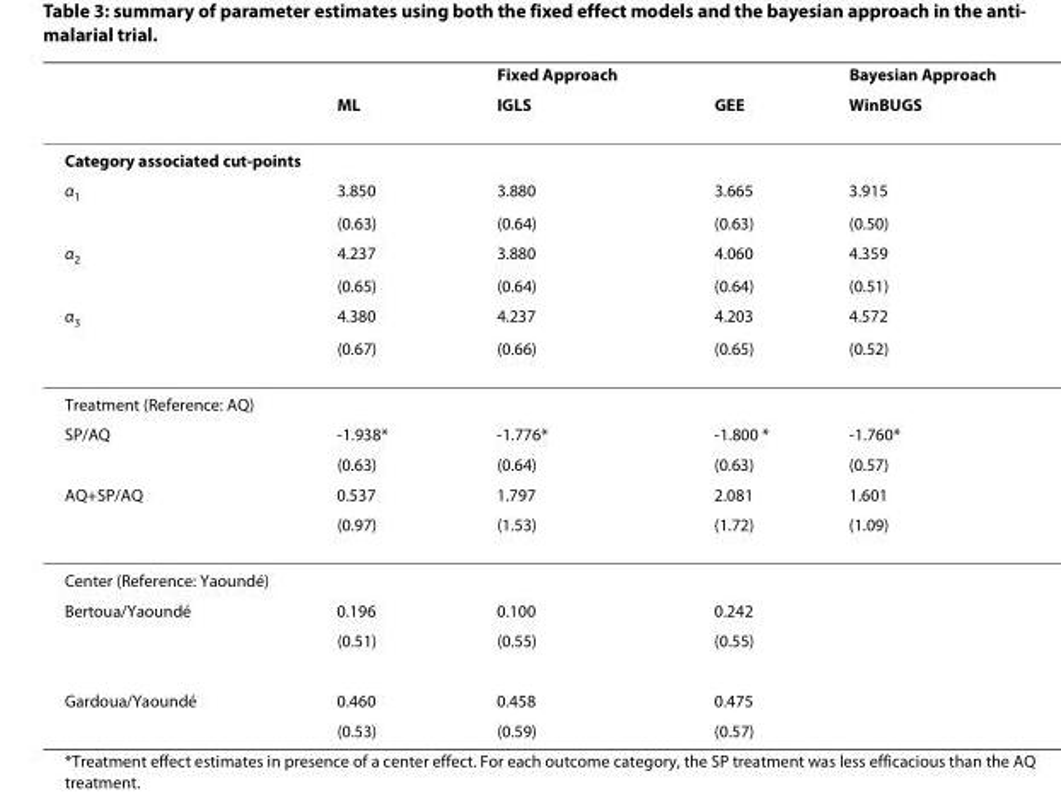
<table><thead><tr><td rowspan="2"></td><td rowspan="2">ML</td><td rowspan="2">Fixed Approach IGLS</td><td rowspan="2">GEE</td><td rowspan="2">Bayesian Approach WinBUGS</td></tr><tr></tr></thead><tbody><tr><td colspan="5">Category associated cut-points</td></tr><tr><td rowspan="2">α<sub>1</sub></td><td>3.850</td><td>3.880</td><td>3.665</td><td>3.915</td></tr><tr><td>(0.63)</td><td>(0.64)</td><td>(0.63)</td><td>(0.50)</td></tr><tr><td rowspan="2">α<sub>2</sub></td><td>4.237</td><td>3.880</td><td>4.060</td><td>4.359</td></tr><tr><td>(0.65)</td><td>(0.64)</td><td>(0.64)</td><td>(0.51)</td></tr><tr><td rowspan="2">α<sub>3</sub></td><td>4.380</td><td>4.237</td><td>4.203</td><td>4.572</td></tr><tr><td>(0.67)</td><td>(0.66)</td><td>(0.65)</td><td>(0.52)</td></tr><tr><td colspan="5">Treatment (Reference: AQ)</td></tr><tr><td rowspan="2">SP/AQ</td><td>-1.938*</td><td>-1.776*</td><td>-1.800 *</td><td>-1.760*</td></tr><tr><td>(0.63)</td><td>(0.64)</td><td>(0.63)</td><td>(0.57)</td></tr><tr><td rowspan="2">AQ+SP/AQ</td><td>0.537</td><td>1.797</td><td>2.081</td><td>1.601</td></tr><tr><td>(0.97)</td><td>(1.53)</td><td>(1.72)</td><td>(1.09)</td></tr><tr><td colspan="5">Center (Reference: Yaoundé)</td></tr><tr><td rowspan="2">Bertoua/Yaoundé</td><td>0.196</td><td>0.100</td><td>0.242</td><td></td></tr><tr><td>(0.51)</td><td>(0.55)</td><td>(0.55)</td><td></td></tr><tr><td rowspan="2">Gardoua/Yaoundé</td><td>0.460</td><td>0.458</td><td>0.475</td><td></td></tr><tr><td>(0.53)</td><td>(0.59)</td><td>(0.57)</td><td></td></tr></tbody></table>